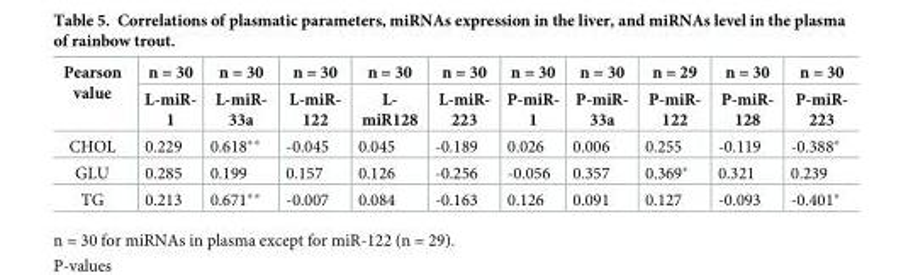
<table><thead><tr><td rowspan="2">Pearson value</td><td rowspan="2">n = 30 L-miR- 1</td><td rowspan="2">n = 30 L-miR- 33a</td><td rowspan="2">n = 30 L-miR- 122</td><td rowspan="2">n = 30 L- miR128</td><td rowspan="2">n = 30 L-miR- 223</td><td rowspan="2">n = 30 P-miR- 1</td><td rowspan="2">n = 30 P-miR- 33a</td><td rowspan="2">n = 29 P-miR- 122</td><td rowspan="2">n = 30 P-miR- 128</td><td rowspan="2">n = 30 P-miR- 223</td></tr><tr></tr></thead><tbody><tr><td>CHOL</td><td>0.229</td><td>0.618**</td><td>-0.045</td><td>0.045</td><td>-0.189</td><td>0.026</td><td>0.006</td><td>0.255</td><td>-0.119</td><td>-0.388*</td></tr><tr><td>GLU</td><td>0.285</td><td>0.199</td><td>0.157</td><td>0.126</td><td>-0.256</td><td>-0.056</td><td>0.357</td><td>0.369*</td><td>0.321</td><td>0.239</td></tr><tr><td>TG</td><td>0.213</td><td>0.671**</td><td>-0.007</td><td>0.084</td><td>-0.163</td><td>0.126</td><td>0.091</td><td>0.127</td><td>-0.093</td><td>-0.401*</td></tr></tbody></table>